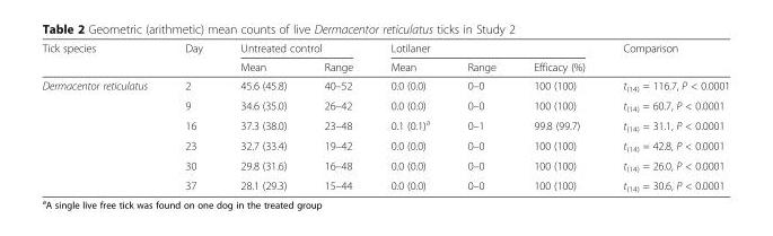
<table><thead><tr><td rowspan="2">Tick species</td><td rowspan="2">Day</td><td colspan="2">Untreated control</td><td colspan="3">Lotilaner</td><td rowspan="2">Comparison</td></tr><tr><td>Mean</td><td>Range</td><td>Mean</td><td>Range</td><td>Efficacy (%)</td></tr></thead><tbody><tr><td rowspan="6">Dermacentor reticulatus</td><td>2</td><td>45.6 (45.8)</td><td>40–52</td><td>0.0 (0.0)</td><td>0–0</td><td>100 (100)</td><td>t<sub>(14)</sub> = 116.7, P &lt; 0.0001</td></tr><tr><td>9</td><td>34.6 (35.0)</td><td>26–42</td><td>0.0 (0.0)</td><td>0–0</td><td>100 (100)</td><td>t<sub>(14)</sub> = 60.7, P &lt; 0.0001</td></tr><tr><td>16</td><td>37.3 (38.0)</td><td>23–48</td><td>0.1 (0.1)<sup>a</sup></td><td>0–1</td><td>99.8 (99.7)</td><td>t<sub>(14)</sub> = 31.1, P &lt; 0.0001</td></tr><tr><td>23</td><td>32.7 (33.4)</td><td>19–42</td><td>0.0 (0.0)</td><td>0–0</td><td>100 (100)</td><td>t<sub>(14)</sub> = 42.8, P &lt; 0.0001</td></tr><tr><td>30</td><td>29.8 (31.6)</td><td>16–48</td><td>0.0 (0.0)</td><td>0–0</td><td>100 (100)</td><td>t<sub>(14)</sub> = 26.0, P &lt; 0.0001</td></tr><tr><td>37</td><td>28.1 (29.3)</td><td>15–44</td><td>0.0 (0.0)</td><td>0–0</td><td>100 (100)</td><td>t<sub>(14)</sub> = 30.6, P &lt; 0.0001</td></tr></tbody></table>